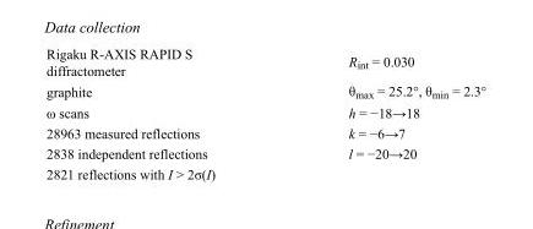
<table><tbody><tr><td>Rigaku R-AXIS RAPID S diffractometer</td><td>R<sub>int</sub> = 0.030</td></tr><tr><td>graphite</td><td>θ<sub>max</sub> = 25.2°, θ<sub>min</sub> = 2.3°</td></tr><tr><td>ω scans</td><td>h = −18→18</td></tr><tr><td>28963 measured reflections</td><td>k = −6→7</td></tr><tr><td>2838 independent reflections</td><td>l = −20→20</td></tr><tr><td>2821 reflections with I &gt; 2σ(I)</td><td></td></tr></tbody></table>